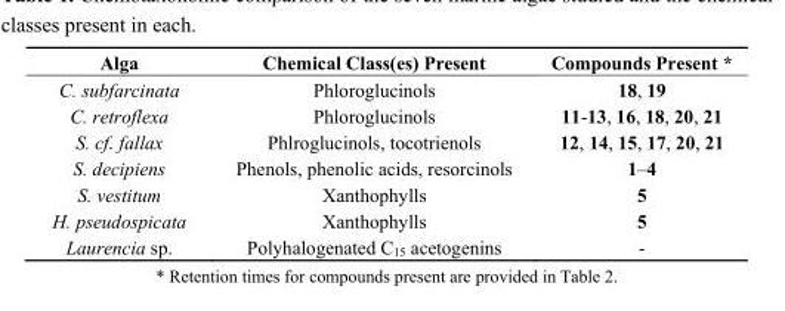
<table><thead><tr><td>Alga</td><td>Chemical Class(es) Present</td><td>Compounds Present *</td></tr></thead><tbody><tr><td>C. subfarcinata</td><td>Phloroglucinols</td><td>18, 19</td></tr><tr><td>C. retroflexa</td><td>Phloroglucinols</td><td>11-13, 16, 18, 20, 21</td></tr><tr><td>S. cf. fallax</td><td>Phlroglucinols, tocotrienols</td><td>12, 14, 15, 17, 20, 21</td></tr><tr><td>S. decipiens</td><td>Phenols, phenolic acids, resorcinols</td><td>1–4</td></tr><tr><td>S. vestitum</td><td>Xanthophylls</td><td>5</td></tr><tr><td>H. pseudospicata</td><td>Xanthophylls</td><td>5</td></tr><tr><td>Laurencia sp.</td><td>Polyhalogenated C<sub>15</sub> acetogenins</td><td>-</td></tr></tbody></table>